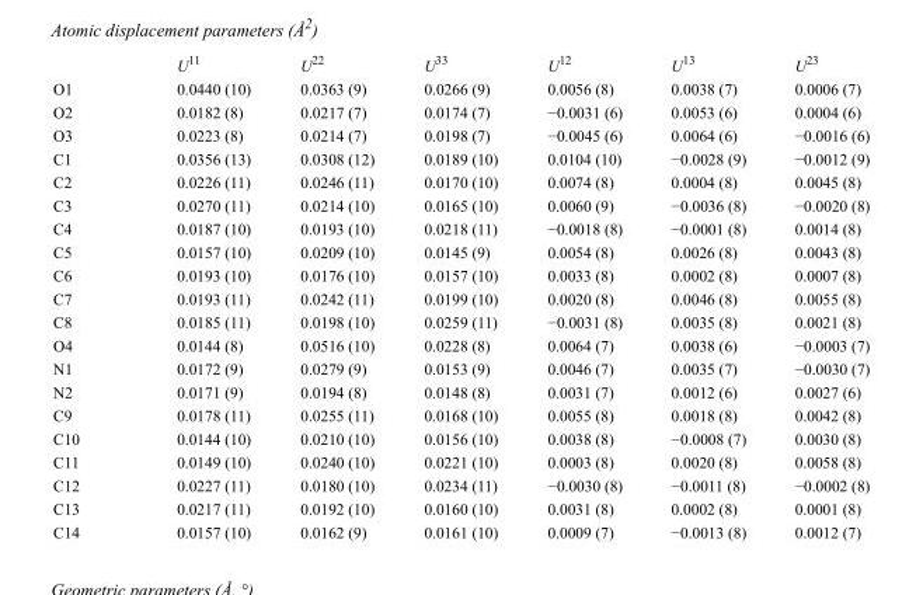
<table><thead><tr><td></td><td>U<sup>11</sup></td><td>U<sup>22</sup></td><td>U<sup>33</sup></td><td>U<sup>12</sup></td><td>U<sup>13</sup></td><td>U<sup>23</sup></td></tr></thead><tbody><tr><td>O1</td><td>0.0440 (10)</td><td>0.0363 (9)</td><td>0.0266 (9)</td><td>0.0056 (8)</td><td>0.0038 (7)</td><td>0.0006 (7)</td></tr><tr><td>O2</td><td>0.0182 (8)</td><td>0.0217 (7)</td><td>0.0174 (7)</td><td>−0.0031 (6)</td><td>0.0053 (6)</td><td>0.0004 (6)</td></tr><tr><td>O3</td><td>0.0223 (8)</td><td>0.0214 (7)</td><td>0.0198 (7)</td><td>−0.0045 (6)</td><td>0.0064 (6)</td><td>−0.0016 (6)</td></tr><tr><td>C1</td><td>0.0356 (13)</td><td>0.0308 (12)</td><td>0.0189 (10)</td><td>0.0104 (10)</td><td>−0.0028 (9)</td><td>−0.0012 (9)</td></tr><tr><td>C2</td><td>0.0226 (11)</td><td>0.0246 (11)</td><td>0.0170 (10)</td><td>0.0074 (8)</td><td>0.0004 (8)</td><td>0.0045 (8)</td></tr><tr><td>C3</td><td>0.0270 (11)</td><td>0.0214 (10)</td><td>0.0165 (10)</td><td>0.0060 (9)</td><td>−0.0036 (8)</td><td>−0.0020 (8)</td></tr><tr><td>C4</td><td>0.0187 (10)</td><td>0.0193 (10)</td><td>0.0218 (11)</td><td>−0.0018 (8)</td><td>−0.0001 (8)</td><td>0.0014 (8)</td></tr><tr><td>C5</td><td>0.0157 (10)</td><td>0.0209 (10)</td><td>0.0145 (9)</td><td>0.0054 (8)</td><td>0.0026 (8)</td><td>0.0043 (8)</td></tr><tr><td>C6</td><td>0.0193 (10)</td><td>0.0176 (10)</td><td>0.0157 (10)</td><td>0.0033 (8)</td><td>0.0002 (8)</td><td>0.0007 (8)</td></tr><tr><td>C7</td><td>0.0193 (11)</td><td>0.0242 (11)</td><td>0.0199 (10)</td><td>0.0020 (8)</td><td>0.0046 (8)</td><td>0.0055 (8)</td></tr><tr><td>C8</td><td>0.0185 (11)</td><td>0.0198 (10)</td><td>0.0259 (11)</td><td>−0.0031 (8)</td><td>0.0035 (8)</td><td>0.0021 (8)</td></tr><tr><td>O4</td><td>0.0144 (8)</td><td>0.0516 (10)</td><td>0.0228 (8)</td><td>0.0064 (7)</td><td>0.0038 (6)</td><td>−0.0003 (7)</td></tr><tr><td>N1</td><td>0.0172 (9)</td><td>0.0279 (9)</td><td>0.0153 (9)</td><td>0.0046 (7)</td><td>0.0035 (7)</td><td>−0.0030 (7)</td></tr><tr><td>N2</td><td>0.0171 (9)</td><td>0.0194 (8)</td><td>0.0148 (8)</td><td>0.0031 (7)</td><td>0.0012 (6)</td><td>0.0027 (6)</td></tr><tr><td>C9</td><td>0.0178 (11)</td><td>0.0255 (11)</td><td>0.0168 (10)</td><td>0.0055 (8)</td><td>0.0018 (8)</td><td>0.0042 (8)</td></tr><tr><td>C10</td><td>0.0144 (10)</td><td>0.0210 (10)</td><td>0.0156 (10)</td><td>0.0038 (8)</td><td>−0.0008 (7)</td><td>0.0030 (8)</td></tr><tr><td>C11</td><td>0.0149 (10)</td><td>0.0240 (10)</td><td>0.0221 (10)</td><td>0.0003 (8)</td><td>0.0020 (8)</td><td>0.0058 (8)</td></tr><tr><td>C12</td><td>0.0227 (11)</td><td>0.0180 (10)</td><td>0.0234 (11)</td><td>−0.0030 (8)</td><td>−0.0011 (8)</td><td>−0.0002 (8)</td></tr><tr><td>C13</td><td>0.0217 (11)</td><td>0.0192 (10)</td><td>0.0160 (10)</td><td>0.0031 (8)</td><td>0.0002 (8)</td><td>0.0001 (8)</td></tr><tr><td>C14</td><td>0.0157 (10)</td><td>0.0162 (9)</td><td>0.0161 (10)</td><td>0.0009 (7)</td><td>−0.0013 (8)</td><td>0.0012 (7)</td></tr></tbody></table>